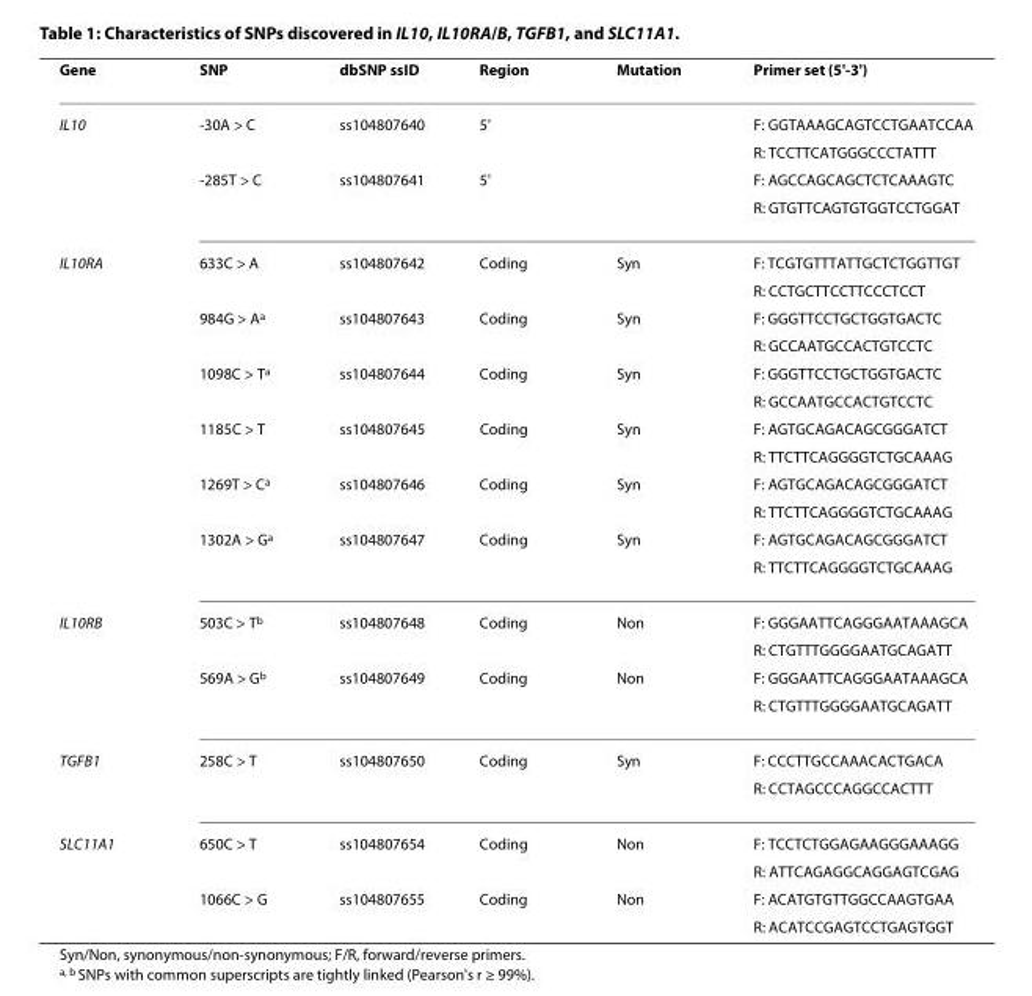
<table><thead><tr><td>Gene</td><td>SNP</td><td>dbSNP ssID</td><td>Region</td><td>Mutation</td><td>Primer set (5&#x27;-3&#x27;)</td></tr></thead><tbody><tr><td rowspan="4">IL10</td><td>-30A &gt; C</td><td>ss104807640</td><td>5&#x27;</td><td></td><td>F: GGTAAAGCAGTCCTGAATCCAA</td></tr><tr><td></td><td></td><td></td><td></td><td>R: TCCTTCATGGGCCCTATTT</td></tr><tr><td>-285T &gt; C</td><td>ss104807641</td><td>5&#x27;</td><td></td><td>F: AGCCAGCAGCTCTCAAAGTC</td></tr><tr><td></td><td></td><td></td><td></td><td>R: GTGTTCAGTGTGGTCCTGGAT</td></tr><tr><td rowspan="12">IL10RA</td><td>633C &gt; A</td><td>ss104807642</td><td>Coding</td><td>Syn</td><td>F: TCGTGTTTATTGCTCTGGTTGT</td></tr><tr><td></td><td></td><td></td><td></td><td>R: CCTGCTTCCTTCCCTCCT</td></tr><tr><td>984G &gt; A<sup>a</sup></td><td>ss104807643</td><td>Coding</td><td>Syn</td><td>F: GGGTTCCTGCTGGTGACTC</td></tr><tr><td></td><td></td><td></td><td></td><td>R: GCCAATGCCACTGTCCTC</td></tr><tr><td>1098C &gt; T<sup>a</sup></td><td>ss104807644</td><td>Coding</td><td>Syn</td><td>F: GGGTTCCTGCTGGTGACTC</td></tr><tr><td></td><td></td><td></td><td></td><td>R: GCCAATGCCACTGTCCTC</td></tr><tr><td>1185C &gt; T</td><td>ss104807645</td><td>Coding</td><td>Syn</td><td>F: AGTGCAGACAGCGGGATCT</td></tr><tr><td></td><td></td><td></td><td></td><td>R: TTCTTCAGGGGTCTGCAAAG</td></tr><tr><td>1269T &gt; C<sup>a</sup></td><td>ss104807646</td><td>Coding</td><td>Syn</td><td>F: AGTGCAGACAGCGGGATCT</td></tr><tr><td></td><td></td><td></td><td></td><td>R: TTCTTCAGGGGTCTGCAAAG</td></tr><tr><td>1302A &gt; G<sup>a</sup></td><td>ss104807647</td><td>Coding</td><td>Syn</td><td>F: AGTGCAGACAGCGGGATCT</td></tr><tr><td></td><td></td><td></td><td></td><td>R: TTCTTCAGGGGTCTGCAAAG</td></tr><tr><td rowspan="4">IL10RB</td><td>503C &gt; T<sup>b</sup></td><td>ss104807648</td><td>Coding</td><td>Non</td><td>F: GGGAATTCAGGGAATAAAGCA</td></tr><tr><td></td><td></td><td></td><td></td><td>R: CTGTTTGGGGAATGCAGATT</td></tr><tr><td>569A &gt; G<sup>b</sup></td><td>ss104807649</td><td>Coding</td><td>Non</td><td>F: GGGAATTCAGGGAATAAAGCA</td></tr><tr><td></td><td></td><td></td><td></td><td>R: CTGTTTGGGGAATGCAGATT</td></tr><tr><td rowspan="2">TGFB1</td><td>258C &gt; T</td><td>ss104807650</td><td>Coding</td><td>Syn</td><td>F: CCCTTGCCAAACACTGACA</td></tr><tr><td></td><td></td><td></td><td></td><td>R: CCTAGCCCAGGCCACTTT</td></tr><tr><td rowspan="4">SLC11A1</td><td>650C &gt; T</td><td>ss104807654</td><td>Coding</td><td>Non</td><td>F: TCCTCTGGAGAAGGGAAAGG</td></tr><tr><td></td><td></td><td></td><td></td><td>R: ATTCAGAGGCAGGAGTCGAG</td></tr><tr><td>1066C &gt; G</td><td>ss104807655</td><td>Coding</td><td>Non</td><td>F: ACATGTGTTGGCCAAGTGAA</td></tr><tr><td></td><td></td><td></td><td></td><td>R: ACATCCGAGTCCTGAGTGGT</td></tr></tbody></table>